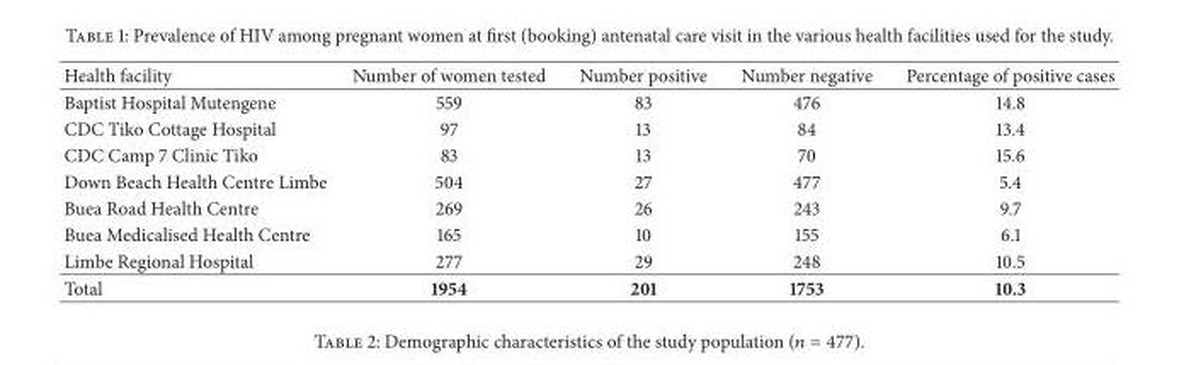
<table><thead><tr><td>Health facility</td><td>Number of women tested</td><td>Number positive</td><td>Number negative</td><td>Percentage of positive cases</td></tr></thead><tbody><tr><td>Baptist Hospital Mutengene</td><td>559</td><td>83</td><td>476</td><td>14.8</td></tr><tr><td>CDC Tiko Cottage Hospital</td><td>97</td><td>13</td><td>84</td><td>13.4</td></tr><tr><td>CDC Camp 7 Clinic Tiko</td><td>83</td><td>13</td><td>70</td><td>15.6</td></tr><tr><td>Down Beach Health Centre Limbe</td><td>504</td><td>27</td><td>477</td><td>5.4</td></tr><tr><td>Buea Road Health Centre</td><td>269</td><td>26</td><td>243</td><td>9.7</td></tr><tr><td>Buea Medicalised Health Centre</td><td>165</td><td>10</td><td>155</td><td>6.1</td></tr><tr><td>Limbe Regional Hospital</td><td>277</td><td>29</td><td>248</td><td>10.5</td></tr><tr><td>Total</td><td>1954</td><td>201</td><td>1753</td><td>10.3</td></tr></tbody></table>